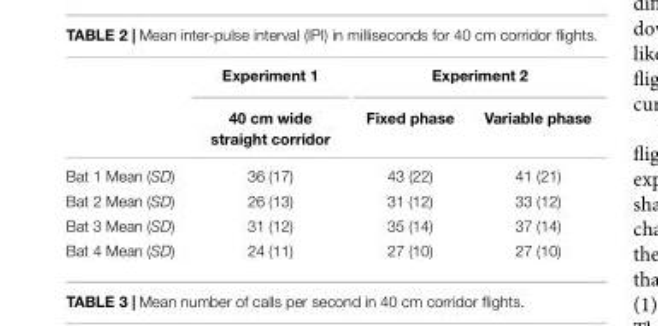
<table><thead><tr><td rowspan="2"></td><td rowspan="2">Experiment 1 40 cm wide straight corridor</td><td colspan="2">Experiment 2</td></tr><tr><td>Fixed phase</td><td>Variable phase</td></tr></thead><tbody><tr><td>Bat 1 Mean (SD)</td><td>36 (17)</td><td>43 (22)</td><td>41 (21)</td></tr><tr><td>Bat 2 Mean (SD)</td><td>26 (13)</td><td>31 (12)</td><td>33 (12)</td></tr><tr><td>Bat 3 Mean (SD)</td><td>31 (12)</td><td>35 (14)</td><td>37 (14)</td></tr><tr><td>Bat 4 Mean (SD)</td><td>24 (11)</td><td>27 (10)</td><td>27 (10)</td></tr></tbody></table>